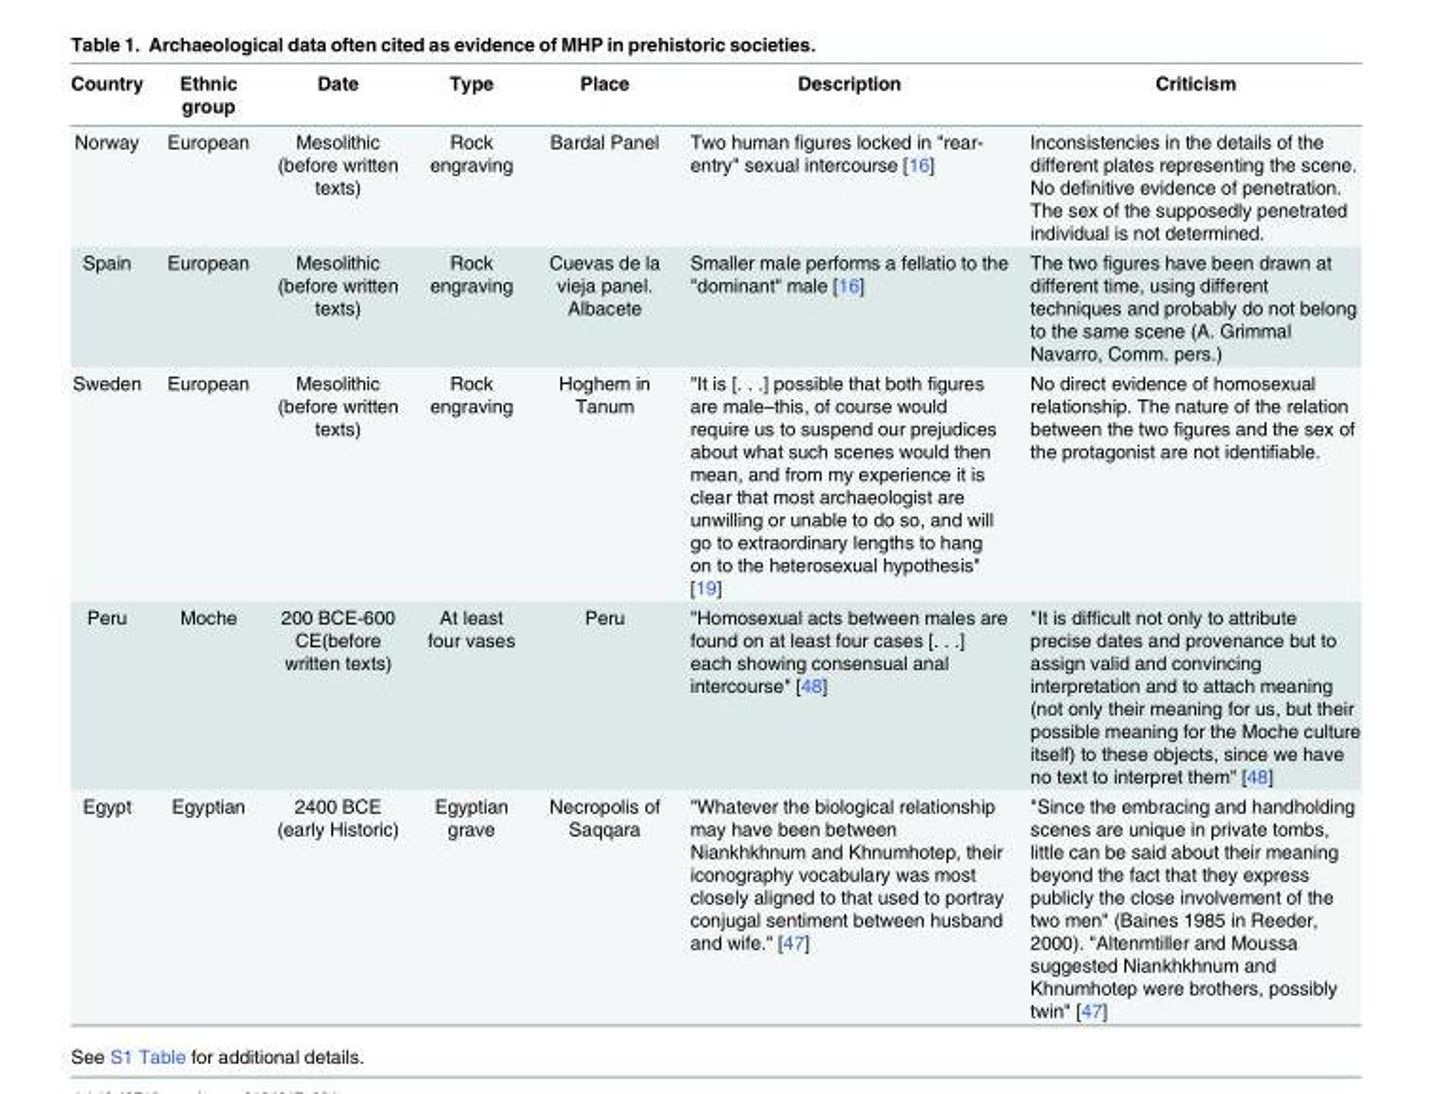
<table><thead><tr><td>Country</td><td>Ethnic group</td><td>Date</td><td>Type</td><td>Place</td><td>Description</td><td>Criticism</td></tr></thead><tbody><tr><td>Norway</td><td>European</td><td>Mesolithic (before written texts)</td><td>Rock engraving</td><td>Bardal Panel</td><td>Two human figures locked in &quot;rear- entry&quot; sexual intercourse [16]</td><td>Inconsistencies in the details of the different plates representing the scene. No definitive evidence of penetration. The sex of the supposedly penetrated individual is not determined.</td></tr><tr><td>Spain</td><td>European</td><td>Mesolithic (before written texts)</td><td>Rock engraving</td><td>Cuevas de la vieja panel. Albacete</td><td>Smaller male performs a fellatio to the &quot;dominant&quot; male [16]</td><td>The two figures have been drawn at different time, using different techniques and probably do not belong to the same scene (A. Grimmal Navarro, Comm. pers.)</td></tr><tr><td>Sweden</td><td>European</td><td>Mesolithic (before written texts)</td><td>Rock engraving</td><td>Hoghem in Tanum</td><td>&quot;It is [. . .] possible that both figures are male–this, of course would require us to suspend our prejudices about what such scenes would then mean, and from my experience it is clear that most archaeologist are unwilling or unable to do so, and will go to extraordinary lengths to hang on to the heterosexual hypothesis&quot; [19]</td><td>No direct evidence of homosexual relationship. The nature of the relation between the two figures and the sex of the protagonist are not identifiable.</td></tr><tr><td>Peru</td><td>Moche</td><td>200 BCE-600 CE(before written texts)</td><td>At least four vases</td><td>Peru</td><td>&quot;Homosexual acts between males are found on at least four cases [. . .] each showing consensual anal intercourse&quot; [48]</td><td>&quot;It is difficult not only to attribute precise dates and provenance but to assign valid and convincing interpretation and to attach meaning (not only their meaning for us, but their possible meaning for the Moche culture itself) to these objects, since we have no text to interpret them&quot; [48]</td></tr><tr><td>Egypt</td><td>Egyptian</td><td>2400 BCE (early Historic)</td><td>Egyptian grave</td><td>Necropolis of Saqqara</td><td>&quot;Whatever the biological relationship may have been between Niankhkhnum and Khnumhotep, their iconography vocabulary was most closely aligned to that used to portray conjugal sentiment between husband and wife.&quot; [47]</td><td>&quot;Since the embracing and handholding scenes are unique in private tombs, little can be said about their meaning beyond the fact that they express publicly the close involvement of the two men&quot; (Baines 1985 in Reeder, 2000). &quot;Altenmtiller and Moussa suggested Niankhkhnum and Khnumhotep were brothers, possibly twin&quot; [47]</td></tr></tbody></table>